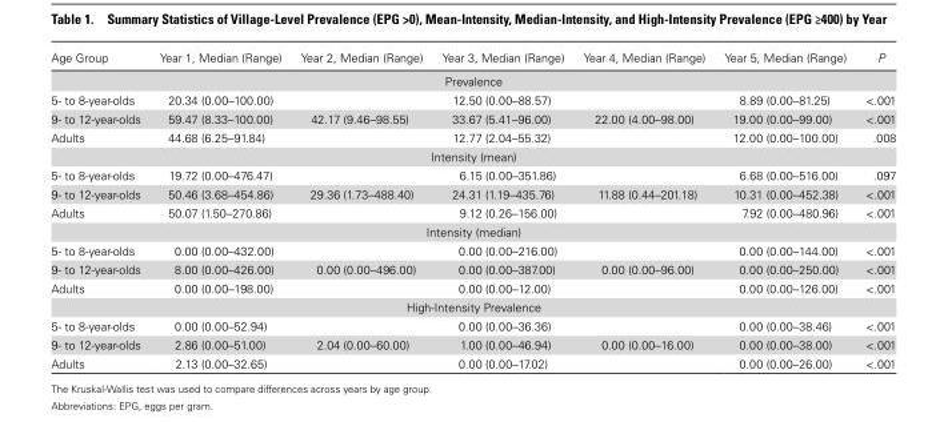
<table><thead><tr><td>Age Group</td><td>Year 1, Median (Range)</td><td>Year 2, Median (Range)</td><td>Year 3, Median (Range)</td><td>Year 4, Median (Range)</td><td>Year 5, Median (Range)</td><td>P</td></tr></thead><tbody><tr><td colspan="7">Prevalence</td></tr><tr><td>5- to 8-year-olds</td><td>20.34 (0.00–100.00)</td><td></td><td>12.50 (0.00–88.57)</td><td></td><td>8.89 (0.00–81.25)</td><td>&lt;.001</td></tr><tr><td>9- to 12-year-olds</td><td>59.47 (8.33–100.00)</td><td>42.17 (9.46–98.55)</td><td>33.67 (5.41–96.00)</td><td>22.00 (4.00–98.00)</td><td>19.00 (0.00–99.00)</td><td>&lt;.001</td></tr><tr><td>Adults</td><td>44.68 (6.25–91.84)</td><td></td><td>12.77 (2.04–55.32)</td><td></td><td>12.00 (0.00–100.00)</td><td>.008</td></tr><tr><td colspan="7">Intensity (mean)</td></tr><tr><td>5- to 8-year-olds</td><td>19.72 (0.00–476.47)</td><td></td><td>6.15 (0.00–351.86)</td><td></td><td>6.68 (0.00–516.00)</td><td>.097</td></tr><tr><td>9- to 12-year-olds</td><td>50.46 (3.68–454.86)</td><td>29.36 (1.73–488.40)</td><td>24.31 (1.19–435.76)</td><td>11.88 (0.44–201.18)</td><td>10.31 (0.00–452.38)</td><td>&lt;.001</td></tr><tr><td>Adults</td><td>50.07 (1.50–270.86)</td><td></td><td>9.12 (0.26–156.00)</td><td></td><td>7.92 (0.00–480.96)</td><td>&lt;.001</td></tr><tr><td colspan="7">Intensity (median)</td></tr><tr><td>5- to 8-year-olds</td><td>0.00 (0.00–432.00)</td><td></td><td>0.00 (0.00–216.00)</td><td></td><td>0.00 (0.00–144.00)</td><td>&lt;.001</td></tr><tr><td>9- to 12-year-olds</td><td>8.00 (0.00–426.00)</td><td>0.00 (0.00–496.00)</td><td>0.00 (0.00–387.00)</td><td>0.00 (0.00–96.00)</td><td>0.00 (0.00–250.00)</td><td>&lt;.001</td></tr><tr><td>Adults</td><td>0.00 (0.00–198.00)</td><td></td><td>0.00 (0.00–12.00)</td><td></td><td>0.00 (0.00–126.00)</td><td>&lt;.001</td></tr><tr><td colspan="7">High-Intensity Prevalence</td></tr><tr><td>5- to 8-year-olds</td><td>0.00 (0.00–52.94)</td><td></td><td>0.00 (0.00–36.36)</td><td></td><td>0.00 (0.00–38.46)</td><td>&lt;.001</td></tr><tr><td>9- to 12-year-olds</td><td>2.86 (0.00–51.00)</td><td>2.04 (0.00–60.00)</td><td>1.00 (0.00–46.94)</td><td>0.00 (0.00–16.00)</td><td>0.00 (0.00–38.00)</td><td>&lt;.001</td></tr><tr><td>Adults</td><td>2.13 (0.00–32.65)</td><td></td><td>0.00 (0.00–17.02)</td><td></td><td>0.00 (0.00–26.00)</td><td>&lt;.001</td></tr></tbody></table>